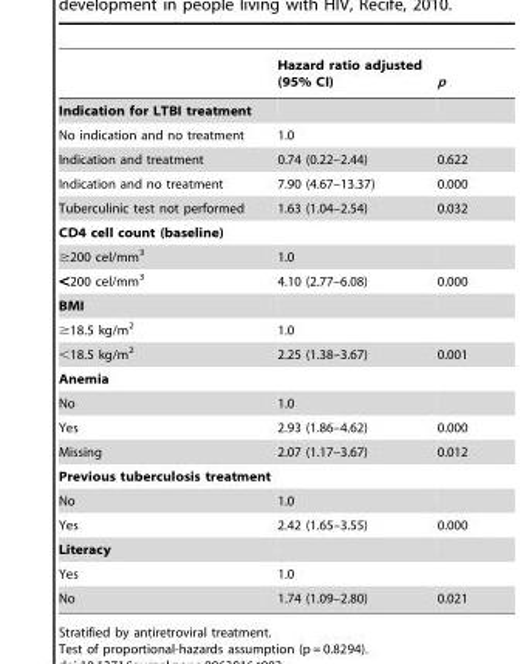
<table><thead><tr><td></td><td>Hazard ratio adjusted (95% CI)</td><td>p</td></tr></thead><tbody><tr><td colspan="3">Indication for LTBI treatment</td></tr><tr><td>No indication and no treatment</td><td>1.0</td><td></td></tr><tr><td>Indication and treatment</td><td>0.74 (0.22–2.44)</td><td>0.622</td></tr><tr><td>Indication and no treatment</td><td>7.90 (4.67–13.37)</td><td>0.000</td></tr><tr><td>Tuberculinic test not performed</td><td>1.63 (1.04–2.54)</td><td>0.032</td></tr><tr><td colspan="3">CD4 cell count (baseline)</td></tr><tr><td>≥200 cel/mm<sup>3</sup></td><td>1.0</td><td></td></tr><tr><td>&lt;200 cel/mm<sup>3</sup></td><td>4.10 (2.77–6.08)</td><td>0.000</td></tr><tr><td colspan="3">BMI</td></tr><tr><td>≥18.5 kg/m<sup>2</sup></td><td>1.0</td><td></td></tr><tr><td>&lt;18.5 kg/m<sup>2</sup></td><td>2.25 (1.38–3.67)</td><td>0.001</td></tr><tr><td colspan="3">Anemia</td></tr><tr><td>No</td><td>1.0</td><td></td></tr><tr><td>Yes</td><td>2.93 (1.86–4.62)</td><td>0.000</td></tr><tr><td>Missing</td><td>2.07 (1.17–3.67)</td><td>0.012</td></tr><tr><td colspan="3">Previous tuberculosis treatment</td></tr><tr><td>No</td><td>1.0</td><td></td></tr><tr><td>Yes</td><td>2.42 (1.65–3.55)</td><td>0.000</td></tr><tr><td colspan="3">Literacy</td></tr><tr><td>Yes</td><td>1.0</td><td></td></tr><tr><td>No</td><td>1.74 (1.09–2.80)</td><td>0.021</td></tr></tbody></table>